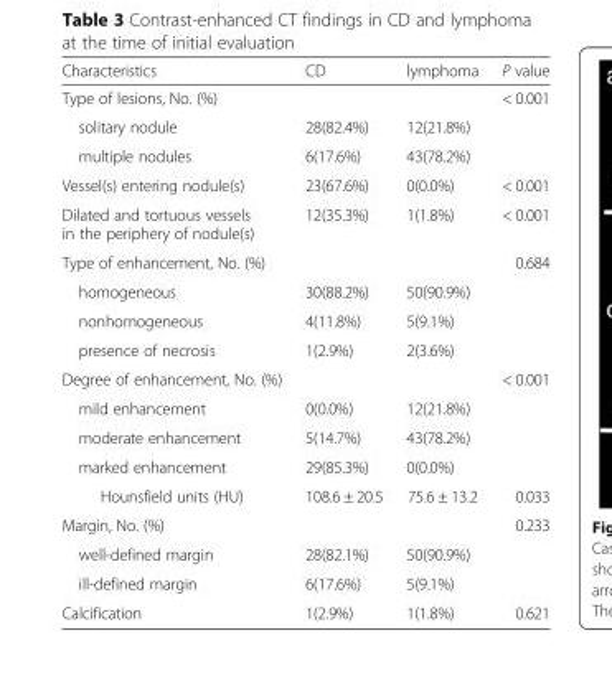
<table><thead><tr><td>Characteristics</td><td>CD</td><td>lymphoma</td><td>P value</td></tr></thead><tbody><tr><td>Type of lesions, No. (%)</td><td></td><td></td><td>&lt; 0.001</td></tr><tr><td>solitary nodule</td><td>28(82.4%)</td><td>12(21.8%)</td><td></td></tr><tr><td>multiple nodules</td><td>6(17.6%)</td><td>43(78.2%)</td><td></td></tr><tr><td>Vessel(s) entering nodule(s)</td><td>23(67.6%)</td><td>0(0.0%)</td><td>&lt; 0.001</td></tr><tr><td>Dilated and tortuous vessels in the periphery of nodule(s)</td><td>12(35.3%)</td><td>1(1.8%)</td><td>&lt; 0.001</td></tr><tr><td>Type of enhancement, No. (%)</td><td></td><td></td><td>0.684</td></tr><tr><td>homogeneous</td><td>30(88.2%)</td><td>50(90.9%)</td><td></td></tr><tr><td>nonhomogeneous</td><td>4(11.8%)</td><td>5(9.1%)</td><td></td></tr><tr><td>presence of necrosis</td><td>1(2.9%)</td><td>2(3.6%)</td><td></td></tr><tr><td>Degree of enhancement, No. (%)</td><td></td><td></td><td>&lt; 0.001</td></tr><tr><td>mild enhancement</td><td>0(0.0%)</td><td>12(21.8%)</td><td></td></tr><tr><td>moderate enhancement</td><td>5(14.7%)</td><td>43(78.2%)</td><td></td></tr><tr><td>marked enhancement</td><td>29(85.3%)</td><td>0(0.0%)</td><td></td></tr><tr><td>Hounsfield units (HU)</td><td>108.6 ± 20.5</td><td>75.6 ± 13.2</td><td>0.033</td></tr><tr><td>Margin, No. (%)</td><td></td><td></td><td>0.233</td></tr><tr><td>well-defined margin</td><td>28(82.1%)</td><td>50(90.9%)</td><td></td></tr><tr><td>ill-defined margin</td><td>6(17.6%)</td><td>5(9.1%)</td><td></td></tr><tr><td>Calcification</td><td>1(2.9%)</td><td>1(1.8%)</td><td>0.621</td></tr></tbody></table>